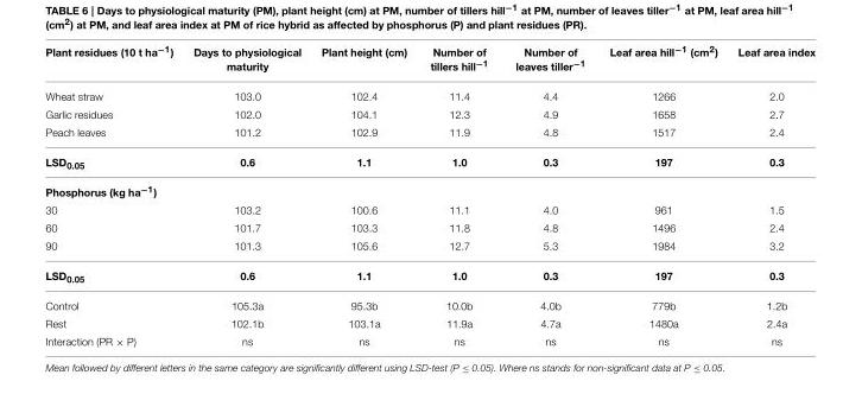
<table><thead><tr><td>Plant residues (10 t ha<sup>−1</sup>)</td><td>Days to physiological maturity</td><td>Plant height (cm)</td><td>Number of tillers hill<sup>−1</sup></td><td>Number of leaves tiller<sup>−1</sup></td><td>Leaf area hill<sup>−1</sup> (cm<sup>2</sup>)</td><td>Leaf area index</td></tr></thead><tbody><tr><td>Wheat straw</td><td>103.0</td><td>102.4</td><td>11.4</td><td>4.4</td><td>1266</td><td>2.0</td></tr><tr><td>Garlic residues</td><td>102.0</td><td>104.1</td><td>12.3</td><td>4.9</td><td>1658</td><td>2.7</td></tr><tr><td>Peach leaves</td><td>101.2</td><td>102.9</td><td>11.9</td><td>4.8</td><td>1517</td><td>2.4</td></tr><tr><td>LSD<sub>0.05</sub></td><td>0.6</td><td>1.1</td><td>1.0</td><td>0.3</td><td>197</td><td>0.3</td></tr><tr><td colspan="7">Phosphorus (kg ha<sup>−1</sup>)</td></tr><tr><td>30</td><td>103.2</td><td>100.6</td><td>11.1</td><td>4.0</td><td>961</td><td>1.5</td></tr><tr><td>60</td><td>101.7</td><td>103.3</td><td>11.8</td><td>4.8</td><td>1496</td><td>2.4</td></tr><tr><td>90</td><td>101.3</td><td>105.6</td><td>12.7</td><td>5.3</td><td>1984</td><td>3.2</td></tr><tr><td>LSD<sub>0.05</sub></td><td>0.6</td><td>1.1</td><td>1.0</td><td>0.3</td><td>197</td><td>0.3</td></tr><tr><td>Control</td><td>105.3a</td><td>95.3b</td><td>10.0b</td><td>4.0b</td><td>779b</td><td>1.2b</td></tr><tr><td>Rest</td><td>102.1b</td><td>103.1a</td><td>11.9a</td><td>4.7a</td><td>1480a</td><td>2.4a</td></tr><tr><td>Interaction (PR × P)</td><td>ns</td><td>ns</td><td>ns</td><td>ns</td><td>ns</td><td>ns</td></tr></tbody></table>